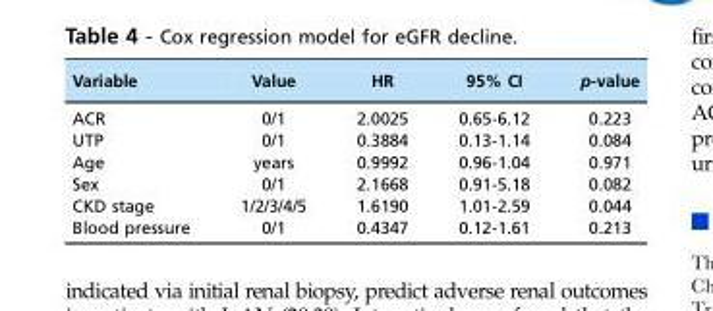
<table><thead><tr><td>Variable</td><td>Value</td><td>HR</td><td>95% CI</td><td>p-value</td></tr></thead><tbody><tr><td>ACR</td><td>0/1</td><td>2.0025</td><td>0.65-6.12</td><td>0.223</td></tr><tr><td>UTP</td><td>0/1</td><td>0.3884</td><td>0.13-1.14</td><td>0.084</td></tr><tr><td>Age</td><td>years</td><td>0.9992</td><td>0.96-1.04</td><td>0.971</td></tr><tr><td>Sex</td><td>0/1</td><td>2.1668</td><td>0.91-5.18</td><td>0.082</td></tr><tr><td>CKD stage</td><td>1/2/3/4/5</td><td>1.6190</td><td>1.01-2.59</td><td>0.044</td></tr><tr><td>Blood pressure</td><td>0/1</td><td>0.4347</td><td>0.12-1.61</td><td>0.213</td></tr></tbody></table>